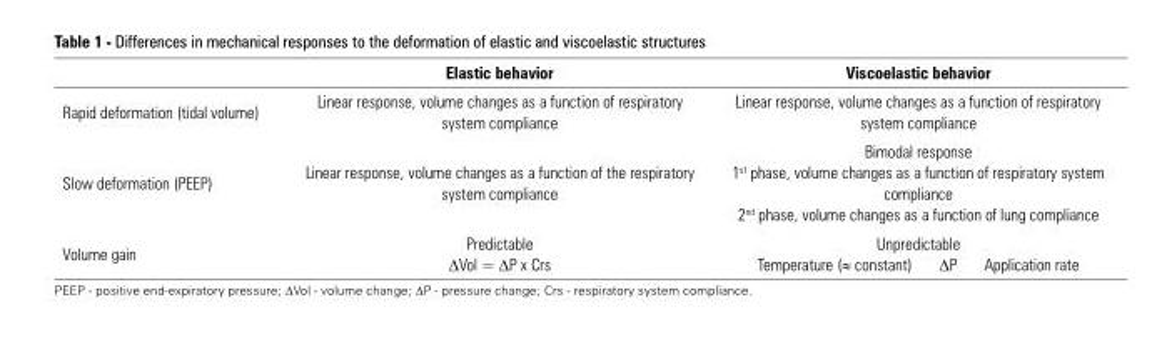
<table><thead><tr><td></td><td>Elastic behavior</td><td>Viscoelastic behavior</td></tr></thead><tbody><tr><td>Rapid deformation (tidal volume)</td><td>Linear response, volume changes as a function of respiratory system compliance</td><td>Linear response, volume changes as a function of respiratory system compliance</td></tr><tr><td>Slow deformation (PEEP)</td><td>Linear response, volume changes as a function of the respiratory system compliance</td><td>Bimodal response 1<sup>st</sup> phase, volume changes as a function of respiratory system compliance 2<sup>nd</sup> phase, volume changes as a function of lung compliance</td></tr><tr><td>Volume gain</td><td>Predictable ∆Vol = ∆P x Crs</td><td>Unpredictable Temperature (≈ constant) ∆P Application rate</td></tr></tbody></table>